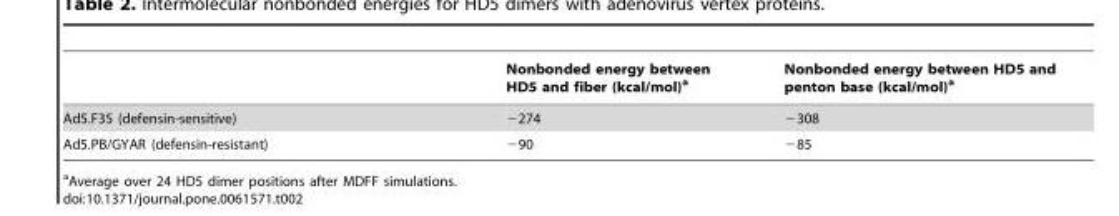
<table><thead><tr><td></td><td>Nonbonded energy between HD5 and fiber (kcal/mol)<sup>a</sup></td><td>Nonbonded energy between HD5 and penton base (kcal/mol)<sup>a</sup></td></tr></thead><tbody><tr><td>Ad5.F35 (defensin-sensitive)</td><td>−274</td><td>−308</td></tr><tr><td>Ad5.PB/GYAR (defensin-resistant)</td><td>−90</td><td>−85</td></tr></tbody></table>